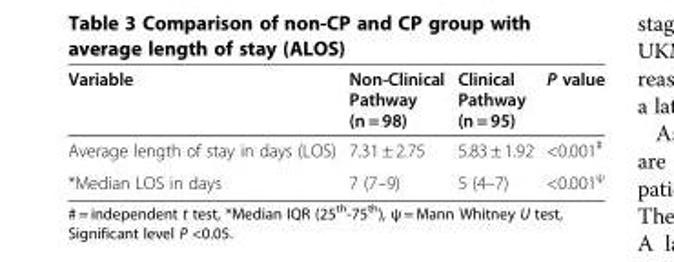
<table><thead><tr><td>Variable</td><td>Non-Clinical Pathway (n = 98)</td><td>Clinical Pathway (n = 95)</td><td>P value</td></tr></thead><tbody><tr><td>Average length of stay in days (LOS)</td><td>7.31 ± 2.75</td><td>5.83 ± 1.92</td><td>&lt;0.001<sup>#</sup></td></tr><tr><td>*Median LOS in days</td><td>7 (7–9)</td><td>5 (4–7)</td><td>&lt;0.001<sup>ψ</sup></td></tr></tbody></table>